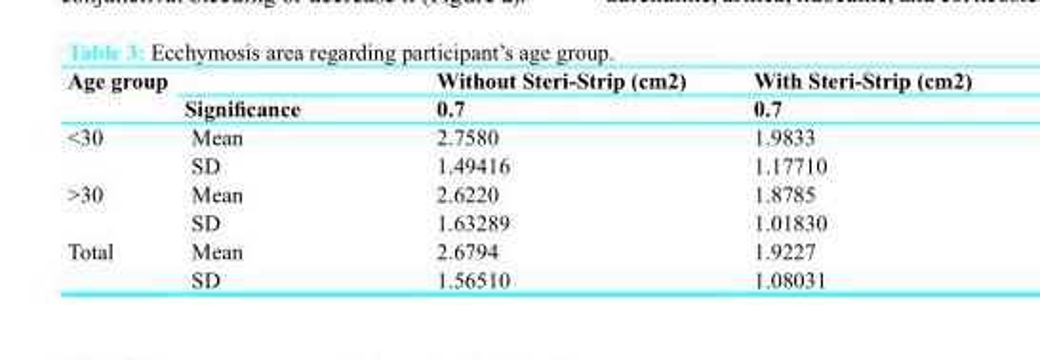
<table><thead><tr><td rowspan="2">Age group</td><td rowspan="2">Significance</td><td rowspan="2">Without Steri-Strip (cm2) 0.7</td><td rowspan="2">With Steri-Strip (cm2) 0.7</td></tr><tr></tr></thead><tbody><tr><td rowspan="2">&lt;30</td><td>Mean</td><td>2.7580</td><td>1.9833</td></tr><tr><td>SD</td><td>1.49416</td><td>1.17710</td></tr><tr><td rowspan="2">&gt;30</td><td>Mean</td><td>2.6220</td><td>1.8785</td></tr><tr><td>SD</td><td>1.63289</td><td>1.01830</td></tr><tr><td rowspan="2">Total</td><td>Mean</td><td>2.6794</td><td>1.9227</td></tr><tr><td>SD</td><td>1.56510</td><td>1.08031</td></tr></tbody></table>